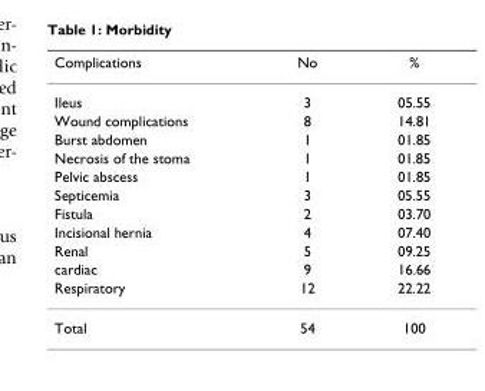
<table><thead><tr><td>Complications</td><td>No</td><td>%</td></tr></thead><tbody><tr><td>Ileus</td><td>3</td><td>05.55</td></tr><tr><td>Wound complications</td><td>8</td><td>14.81</td></tr><tr><td>Burst abdomen</td><td>1</td><td>01.85</td></tr><tr><td>Necrosis of the stoma</td><td>1</td><td>01.85</td></tr><tr><td>Pelvic abscess</td><td>1</td><td>01.85</td></tr><tr><td>Septicemia</td><td>3</td><td>05.55</td></tr><tr><td>Fistula</td><td>2</td><td>03.70</td></tr><tr><td>Incisional hernia</td><td>4</td><td>07.40</td></tr><tr><td>Renal</td><td>5</td><td>09.25</td></tr><tr><td>cardiac</td><td>9</td><td>16.66</td></tr><tr><td>Respiratory</td><td>12</td><td>22.22</td></tr><tr><td>Total</td><td>54</td><td>100</td></tr></tbody></table>